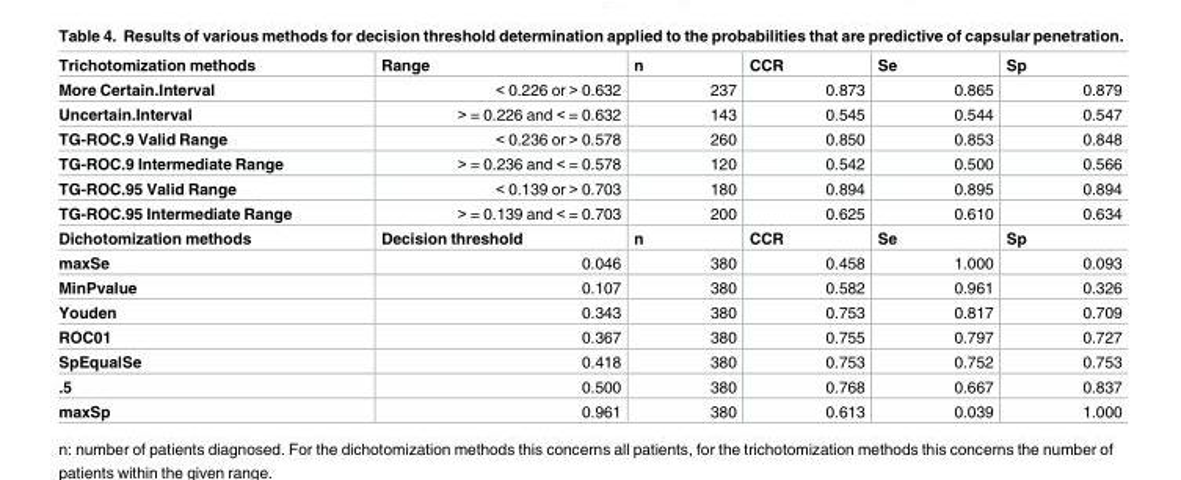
<table><tbody><tr><td>Trichotomization methods</td><td>Range</td><td>n</td><td>CCR</td><td>Se</td><td>Sp</td></tr><tr><td>More Certain.Interval</td><td>&lt; 0.226 or &gt; 0.632</td><td>237</td><td>0.873</td><td>0.865</td><td>0.879</td></tr><tr><td>Uncertain.Interval</td><td>&gt; = 0.226 and &lt; = 0.632</td><td>143</td><td>0.545</td><td>0.544</td><td>0.547</td></tr><tr><td>TG-ROC.9 Valid Range</td><td>&lt; 0.236 or &gt; 0.578</td><td>260</td><td>0.850</td><td>0.853</td><td>0.848</td></tr><tr><td>TG-ROC.9 Intermediate Range</td><td>&gt; = 0.236 and &lt; = 0.578</td><td>120</td><td>0.542</td><td>0.500</td><td>0.566</td></tr><tr><td>TG-ROC.95 Valid Range</td><td>&lt; 0.139 or &gt; 0.703</td><td>180</td><td>0.894</td><td>0.895</td><td>0.894</td></tr><tr><td>TG-ROC.95 Intermediate Range</td><td>&gt; = 0.139 and &lt; = 0.703</td><td>200</td><td>0.625</td><td>0.610</td><td>0.634</td></tr><tr><td>Dichotomization methods</td><td>Decision threshold</td><td>n</td><td>CCR</td><td>Se</td><td>Sp</td></tr><tr><td>maxSe</td><td>0.046</td><td>380</td><td>0.458</td><td>1.000</td><td>0.093</td></tr><tr><td>MinPvalue</td><td>0.107</td><td>380</td><td>0.582</td><td>0.961</td><td>0.326</td></tr><tr><td>Youden</td><td>0.343</td><td>380</td><td>0.753</td><td>0.817</td><td>0.709</td></tr><tr><td>ROC01</td><td>0.367</td><td>380</td><td>0.755</td><td>0.797</td><td>0.727</td></tr><tr><td>SpEqualSe</td><td>0.418</td><td>380</td><td>0.753</td><td>0.752</td><td>0.753</td></tr><tr><td>.5</td><td>0.500</td><td>380</td><td>0.768</td><td>0.667</td><td>0.837</td></tr><tr><td>maxSp</td><td>0.961</td><td>380</td><td>0.613</td><td>0.039</td><td>1.000</td></tr></tbody></table>